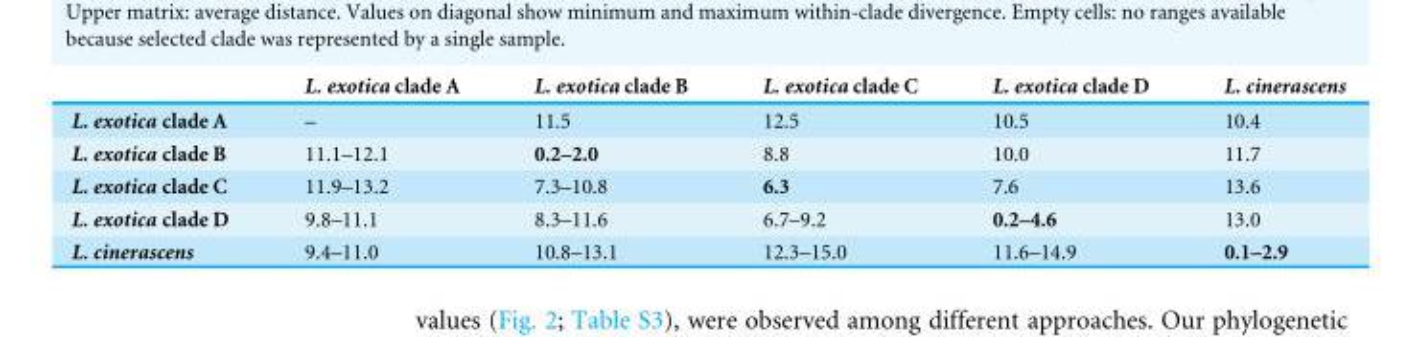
<table><thead><tr><td></td><td>L. exotica clade A</td><td>L. exotica clade B</td><td>L. exotica clade C</td><td>L. exotica clade D</td><td>L. cinerascens</td></tr></thead><tbody><tr><td>L. exotica clade A</td><td>–</td><td>11.5</td><td>12.5</td><td>10.5</td><td>10.4</td></tr><tr><td>L. exotica clade B</td><td>11.1–12.1</td><td>0.2–2.0</td><td>8.8</td><td>10.0</td><td>11.7</td></tr><tr><td>L. exotica clade C</td><td>11.9–13.2</td><td>7.3–10.8</td><td>6.3</td><td>7.6</td><td>13.6</td></tr><tr><td>L. exotica clade D</td><td>9.8–11.1</td><td>8.3–11.6</td><td>6.7–9.2</td><td>0.2–4.6</td><td>13.0</td></tr><tr><td>L. cinerascens</td><td>9.4–11.0</td><td>10.8–13.1</td><td>12.3–15.0</td><td>11.6–14.9</td><td>0.1–2.9</td></tr></tbody></table>